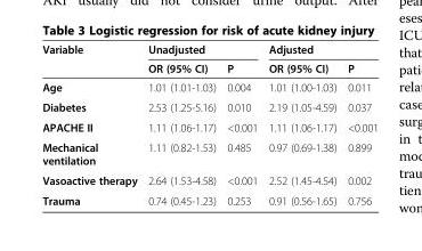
<table><thead><tr><td rowspan="2">Variable</td><td colspan="2">Unadjusted</td><td colspan="2">Adjusted</td></tr><tr><td>OR (95% CI)</td><td>P</td><td>OR (95% CI)</td><td>P</td></tr></thead><tbody><tr><td>Age</td><td>1.01 (1.01-1.03)</td><td>0.004</td><td>1.01 (1.00-1.03)</td><td>0.011</td></tr><tr><td>Diabetes</td><td>2.53 (1.25-5.16)</td><td>0.010</td><td>2.19 (1.05-4.59)</td><td>0.037</td></tr><tr><td>APACHE II</td><td>1.11 (1.06-1.17)</td><td>&lt;0.001</td><td>1.11 (1.06-1.17)</td><td>&lt;0.001</td></tr><tr><td>Mechanical ventilation</td><td>1.11 (0.82-1.53)</td><td>0.485</td><td>0.97 (0.69-1.38)</td><td>0.899</td></tr><tr><td>Vasoactive therapy</td><td>2.64 (1.53-4.58)</td><td>&lt;0.001</td><td>2.52 (1.45-4.54)</td><td>0.002</td></tr><tr><td>Trauma</td><td>0.74 (0.45-1.23)</td><td>0.253</td><td>0.91 (0.56-1.65)</td><td>0.756</td></tr></tbody></table>